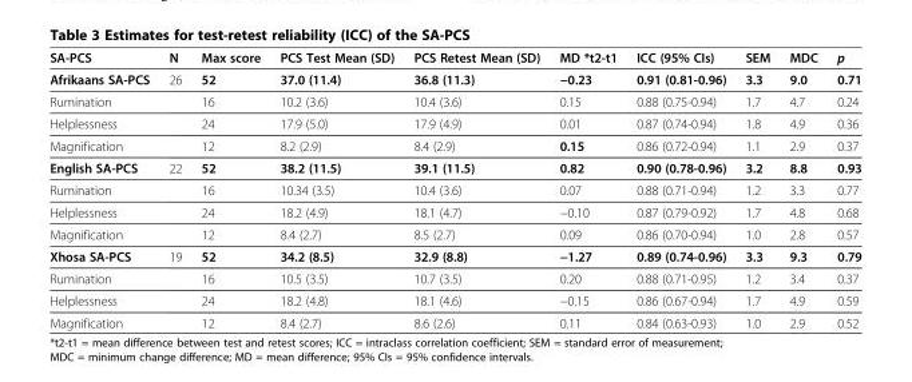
<table><thead><tr><td>SA-PCS</td><td>N</td><td>Max score</td><td>PCS Test Mean (SD)</td><td>PCS Retest Mean (SD)</td><td>MD *t2-t1</td><td>ICC (95% CIs)</td><td>SEM</td><td>MDC</td><td>p</td></tr></thead><tbody><tr><td>Afrikaans SA-PCS</td><td>26</td><td>52</td><td>37.0 (11.4)</td><td>36.8 (11.3)</td><td>−0.23</td><td>0.91 (0.81-0.96)</td><td>3.3</td><td>9.0</td><td>0.71</td></tr><tr><td>Rumination</td><td></td><td>16</td><td>10.2 (3.6)</td><td>10.4 (3.6)</td><td>0.15</td><td>0.88 (0.75-0.94)</td><td>1.7</td><td>4.7</td><td>0.24</td></tr><tr><td>Helplessness</td><td></td><td>24</td><td>17.9 (5.0)</td><td>17.9 (4.9)</td><td>0.01</td><td>0.87 (0.74-0.94)</td><td>1.8</td><td>4.9</td><td>0.36</td></tr><tr><td>Magnification</td><td></td><td>12</td><td>8.2 (2.9)</td><td>8.4 (2.9)</td><td>0.15</td><td>0.86 (0.72-0.94)</td><td>1.1</td><td>2.9</td><td>0.37</td></tr><tr><td>English SA-PCS</td><td>22</td><td>52</td><td>38.2 (11.5)</td><td>39.1 (11.5)</td><td>0.82</td><td>0.90 (0.78-0.96)</td><td>3.2</td><td>8.8</td><td>0.93</td></tr><tr><td>Rumination</td><td></td><td>16</td><td>10.34 (3.5)</td><td>10.4 (3.6)</td><td>0.07</td><td>0.88 (0.71-0.94)</td><td>1.2</td><td>3.3</td><td>0.77</td></tr><tr><td>Helplessness</td><td></td><td>24</td><td>18.2 (4.9)</td><td>18.1 (4.7)</td><td>−0.10</td><td>0.87 (0.79-0.92)</td><td>1.7</td><td>4.8</td><td>0.68</td></tr><tr><td>Magnification</td><td></td><td>12</td><td>8.4 (2.7)</td><td>8.5 (2.7)</td><td>0.09</td><td>0.86 (0.70-0.94)</td><td>1.0</td><td>2.8</td><td>0.57</td></tr><tr><td>Xhosa SA-PCS</td><td>19</td><td>52</td><td>34.2 (8.5)</td><td>32.9 (8.8)</td><td>−1.27</td><td>0.89 (0.74-0.96)</td><td>3.3</td><td>9.3</td><td>0.79</td></tr><tr><td>Rumination</td><td></td><td>16</td><td>10.5 (3.5)</td><td>10.7 (3.5)</td><td>0.20</td><td>0.88 (0.71-0.95)</td><td>1.2</td><td>3.4</td><td>0.37</td></tr><tr><td>Helplessness</td><td></td><td>24</td><td>18.2 (4.8)</td><td>18.1 (4.6)</td><td>−0.15</td><td>0.86 (0.67-0.94)</td><td>1.7</td><td>4.9</td><td>0.59</td></tr><tr><td>Magnification</td><td></td><td>12</td><td>8.4 (2.7)</td><td>8.6 (2.6)</td><td>0.11</td><td>0.84 (0.63-0.93)</td><td>1.0</td><td>2.9</td><td>0.52</td></tr></tbody></table>